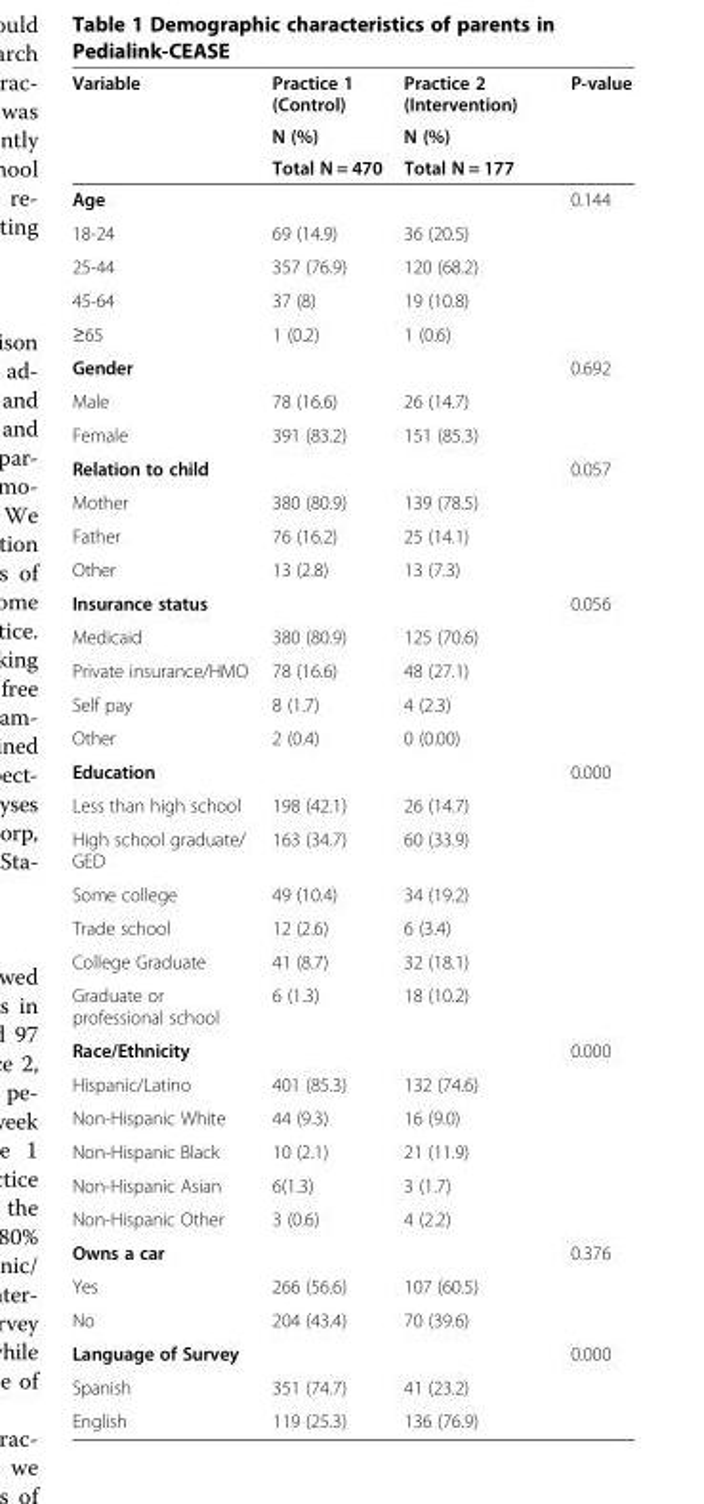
<table><thead><tr><td rowspan="3">Variable</td><td rowspan="3">Practice 1 (Control) N (%) Total N = 470</td><td rowspan="3">Practice 2 (Intervention) N (%) Total N = 177</td><td rowspan="3">P-value</td></tr><tr></tr><tr></tr></thead><tbody><tr><td>Age</td><td></td><td></td><td>0.144</td></tr><tr><td>18-24</td><td>69 (14.9)</td><td>36 (20.5)</td><td></td></tr><tr><td>25-44</td><td>357 (76.9)</td><td>120 (68.2)</td><td></td></tr><tr><td>45-64</td><td>37 (8)</td><td>19 (10.8)</td><td></td></tr><tr><td>≥65</td><td>1 (0.2)</td><td>1 (0.6)</td><td></td></tr><tr><td>Gender</td><td></td><td></td><td>0.692</td></tr><tr><td>Male</td><td>78 (16.6)</td><td>26 (14.7)</td><td></td></tr><tr><td>Female</td><td>391 (83.2)</td><td>151 (85.3)</td><td></td></tr><tr><td>Relation to child</td><td></td><td></td><td>0.057</td></tr><tr><td>Mother</td><td>380 (80.9)</td><td>139 (78.5)</td><td></td></tr><tr><td>Father</td><td>76 (16.2)</td><td>25 (14.1)</td><td></td></tr><tr><td>Other</td><td>13 (2.8)</td><td>13 (7.3)</td><td></td></tr><tr><td>Insurance status</td><td></td><td></td><td>0.056</td></tr><tr><td>Medicaid</td><td>380 (80.9)</td><td>125 (70.6)</td><td></td></tr><tr><td>Private insurance/HMO</td><td>78 (16.6)</td><td>48 (27.1)</td><td></td></tr><tr><td>Self pay</td><td>8 (1.7)</td><td>4 (2.3)</td><td></td></tr><tr><td>Other</td><td>2 (0.4)</td><td>0 (0.00)</td><td></td></tr><tr><td>Education</td><td></td><td></td><td>0.000</td></tr><tr><td>Less than high school</td><td>198 (42.1)</td><td>26 (14.7)</td><td></td></tr><tr><td>High school graduate/ GED</td><td>163 (34.7)</td><td>60 (33.9)</td><td></td></tr><tr><td>Some college</td><td>49 (10.4)</td><td>34 (19.2)</td><td></td></tr><tr><td>Trade school</td><td>12 (2.6)</td><td>6 (3.4)</td><td></td></tr><tr><td>College Graduate</td><td>41 (8.7)</td><td>32 (18.1)</td><td></td></tr><tr><td>Graduate or professional school</td><td>6 (1.3)</td><td>18 (10.2)</td><td></td></tr><tr><td>Race/Ethnicity</td><td></td><td></td><td>0.000</td></tr><tr><td>Hispanic/Latino</td><td>401 (85.3)</td><td>132 (74.6)</td><td></td></tr><tr><td>Non-Hispanic White</td><td>44 (9.3)</td><td>16 (9.0)</td><td></td></tr><tr><td>Non-Hispanic Black</td><td>10 (2.1)</td><td>21 (11.9)</td><td></td></tr><tr><td>Non-Hispanic Asian</td><td>6(1.3)</td><td>3 (1.7)</td><td></td></tr><tr><td>Non-Hispanic Other</td><td>3 (0.6)</td><td>4 (2.2)</td><td></td></tr><tr><td>Owns a car</td><td></td><td></td><td>0.376</td></tr><tr><td>Yes</td><td>266 (56.6)</td><td>107 (60.5)</td><td></td></tr><tr><td>No</td><td>204 (43.4)</td><td>70 (39.6)</td><td></td></tr><tr><td>Language of Survey</td><td></td><td></td><td>0.000</td></tr><tr><td>Spanish</td><td>351 (74.7)</td><td>41 (23.2)</td><td></td></tr><tr><td>English</td><td>119 (25.3)</td><td>136 (76.9)</td><td></td></tr></tbody></table>